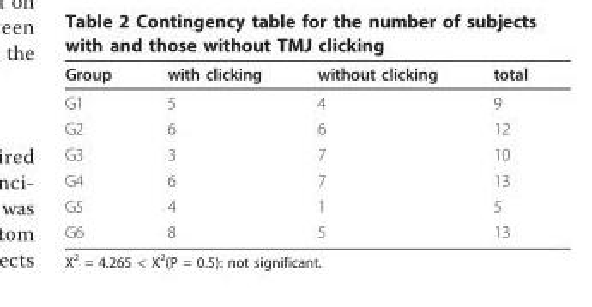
<table><thead><tr><td>Group</td><td>with clicking</td><td>without clicking</td><td>total</td></tr></thead><tbody><tr><td>G1</td><td>5</td><td>4</td><td>9</td></tr><tr><td>G2</td><td>6</td><td>6</td><td>12</td></tr><tr><td>G3</td><td>3</td><td>7</td><td>10</td></tr><tr><td>G4</td><td>6</td><td>7</td><td>13</td></tr><tr><td>G5</td><td>4</td><td>1</td><td>5</td></tr><tr><td>G6</td><td>8</td><td>5</td><td>13</td></tr></tbody></table>